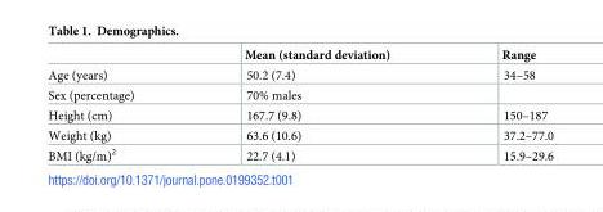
<table><thead><tr><td></td><td>Mean (standard deviation)</td><td>Range</td></tr></thead><tbody><tr><td>Age (years)</td><td>50.2 (7.4)</td><td>34–58</td></tr><tr><td>Sex (percentage)</td><td>70% males</td><td></td></tr><tr><td>Height (cm)</td><td>167.7 (9.8)</td><td>150–187</td></tr><tr><td>Weight (kg)</td><td>63.6 (10.6)</td><td>37.2–77.0</td></tr><tr><td>BMI (kg/m)<sup>2</sup></td><td>22.7 (4.1)</td><td>15.9–29.6</td></tr></tbody></table>